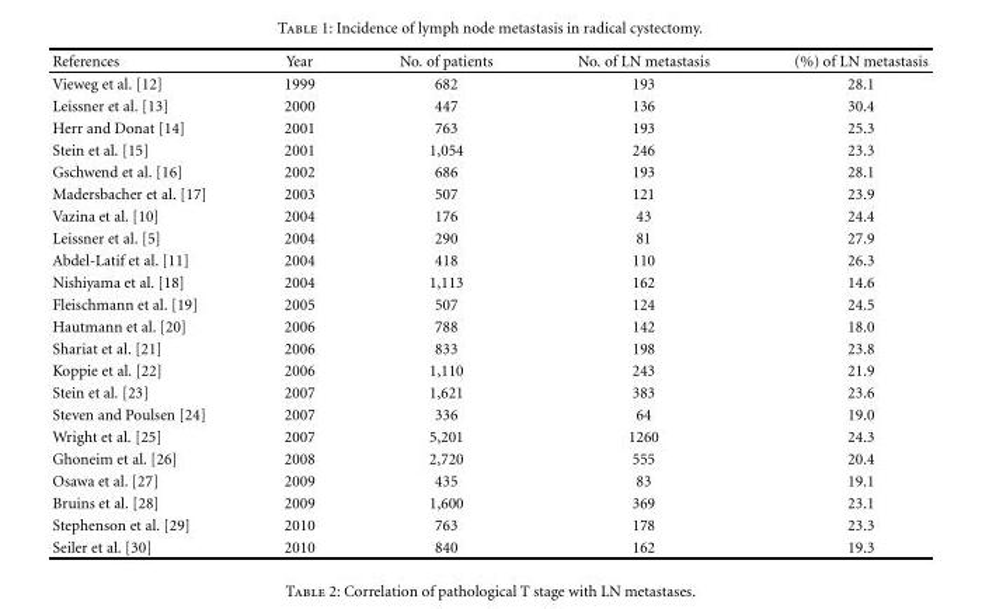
<table><thead><tr><td>References</td><td>Year</td><td>No. of patients</td><td>No. of LN metastasis</td><td>(%) of LN metastasis</td></tr></thead><tbody><tr><td>Vieweg et al. [12]</td><td>1999</td><td>682</td><td>193</td><td>28.1</td></tr><tr><td>Leissner et al. [13]</td><td>2000</td><td>447</td><td>136</td><td>30.4</td></tr><tr><td>Herr and Donat [14]</td><td>2001</td><td>763</td><td>193</td><td>25.3</td></tr><tr><td>Stein et al. [15]</td><td>2001</td><td>1,054</td><td>246</td><td>23.3</td></tr><tr><td>Gschwend et al. [16]</td><td>2002</td><td>686</td><td>193</td><td>28.1</td></tr><tr><td>Madersbacher et al. [17]</td><td>2003</td><td>507</td><td>121</td><td>23.9</td></tr><tr><td>Vazina et al. [10]</td><td>2004</td><td>176</td><td>43</td><td>24.4</td></tr><tr><td>Leissner et al. [5]</td><td>2004</td><td>290</td><td>81</td><td>27.9</td></tr><tr><td>Abdel-Latif et al. [11]</td><td>2004</td><td>418</td><td>110</td><td>26.3</td></tr><tr><td>Nishiyama et al. [18]</td><td>2004</td><td>1,113</td><td>162</td><td>14.6</td></tr><tr><td>Fleischmann et al. [19]</td><td>2005</td><td>507</td><td>124</td><td>24.5</td></tr><tr><td>Hautmann et al. [20]</td><td>2006</td><td>788</td><td>142</td><td>18.0</td></tr><tr><td>Shariat et al. [21]</td><td>2006</td><td>833</td><td>198</td><td>23.8</td></tr><tr><td>Koppie et al. [22]</td><td>2006</td><td>1,110</td><td>243</td><td>21.9</td></tr><tr><td>Stein et al. [23]</td><td>2007</td><td>1,621</td><td>383</td><td>23.6</td></tr><tr><td>Steven and Poulsen [24]</td><td>2007</td><td>336</td><td>64</td><td>19.0</td></tr><tr><td>Wright et al. [25]</td><td>2007</td><td>5,201</td><td>1260</td><td>24.3</td></tr><tr><td>Ghoneim et al. [26]</td><td>2008</td><td>2,720</td><td>555</td><td>20.4</td></tr><tr><td>Osawa et al. [27]</td><td>2009</td><td>435</td><td>83</td><td>19.1</td></tr><tr><td>Bruins et al. [28]</td><td>2009</td><td>1,600</td><td>369</td><td>23.1</td></tr><tr><td>Stephenson et al. [29]</td><td>2010</td><td>763</td><td>178</td><td>23.3</td></tr><tr><td>Seiler et al. [30]</td><td>2010</td><td>840</td><td>162</td><td>19.3</td></tr></tbody></table>